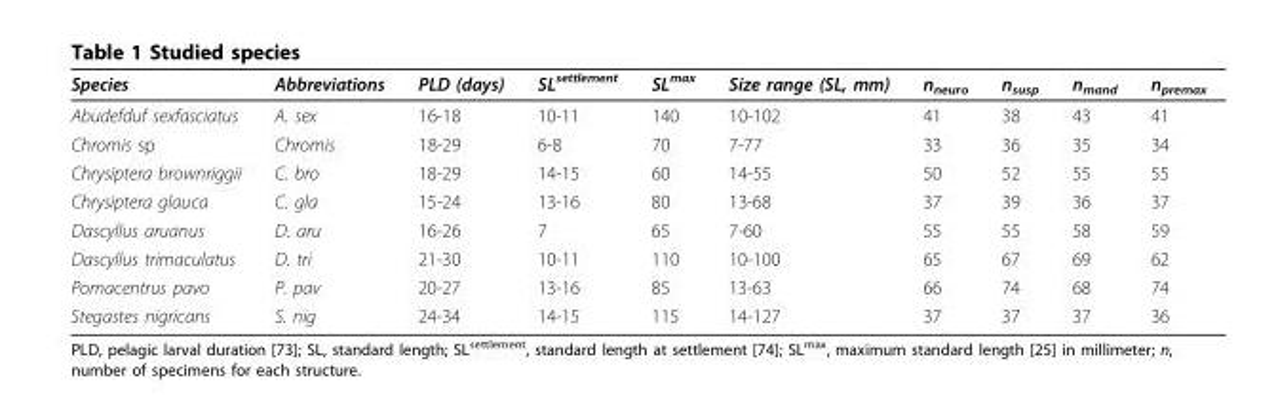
<table><thead><tr><td>Species</td><td>Abbreviations</td><td>PLD (days)</td><td>SL<sup>settlement</sup></td><td>SL<sup>max</sup></td><td>Size range (SL, mm)</td><td>n<sub>neuro</sub></td><td>n<sub>susp</sub></td><td>n<sub>mand</sub></td><td>n<sub>premax</sub></td></tr></thead><tbody><tr><td>Abudefduf sexfasciatus</td><td>A. sex</td><td>16-18</td><td>10-11</td><td>140</td><td>10-102</td><td>41</td><td>38</td><td>43</td><td>41</td></tr><tr><td>Chromis sp</td><td>Chromis</td><td>18-29</td><td>6-8</td><td>70</td><td>7-77</td><td>33</td><td>36</td><td>35</td><td>34</td></tr><tr><td>Chrysiptera brownriggii</td><td>C. bro</td><td>18-29</td><td>14-15</td><td>60</td><td>14-55</td><td>50</td><td>52</td><td>55</td><td>55</td></tr><tr><td>Chrysiptera glauca</td><td>C. gla</td><td>15-24</td><td>13-16</td><td>80</td><td>13-68</td><td>37</td><td>39</td><td>36</td><td>37</td></tr><tr><td>Dascyllus aruanus</td><td>D. aru</td><td>16-26</td><td>7</td><td>65</td><td>7-60</td><td>55</td><td>55</td><td>58</td><td>59</td></tr><tr><td>Dascyllus trimaculatus</td><td>D. tri</td><td>21-30</td><td>10-11</td><td>110</td><td>10-100</td><td>65</td><td>67</td><td>69</td><td>62</td></tr><tr><td>Pomacentrus pavo</td><td>P. pav</td><td>20-27</td><td>13-16</td><td>85</td><td>13-63</td><td>66</td><td>74</td><td>68</td><td>74</td></tr><tr><td>Stegastes nigricans</td><td>S. nig</td><td>24-34</td><td>14-15</td><td>115</td><td>14-127</td><td>37</td><td>37</td><td>37</td><td>36</td></tr></tbody></table>